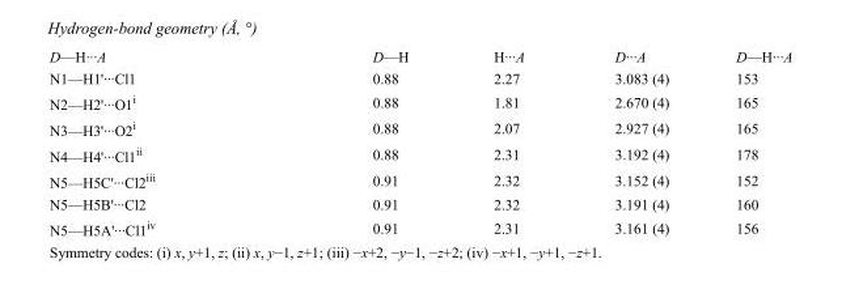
<table><tbody><tr><td>D—H···A</td><td>D—H</td><td>H···A</td><td>D···A</td><td>D—H···A</td></tr><tr><td>N1—H1&#x27;···Cl1</td><td>0.88</td><td>2.27</td><td>3.083 (4)</td><td>153</td></tr><tr><td>N2—H2&#x27;···O1<sup>i</sup></td><td>0.88</td><td>1.81</td><td>2.670 (4)</td><td>165</td></tr><tr><td>N3—H3&#x27;···O2<sup>i</sup></td><td>0.88</td><td>2.07</td><td>2.927 (4)</td><td>165</td></tr><tr><td>N4—H4&#x27;···Cl1<sup>ii</sup></td><td>0.88</td><td>2.31</td><td>3.192 (4)</td><td>178</td></tr><tr><td>N5—H5C&#x27;···Cl2<sup>iii</sup></td><td>0.91</td><td>2.32</td><td>3.152 (4)</td><td>152</td></tr><tr><td>N5—H5B&#x27;···Cl2</td><td>0.91</td><td>2.32</td><td>3.191 (4)</td><td>160</td></tr><tr><td>N5—H5A&#x27;···Cl1<sup>iv</sup></td><td>0.91</td><td>2.31</td><td>3.161 (4)</td><td>156</td></tr></tbody></table>